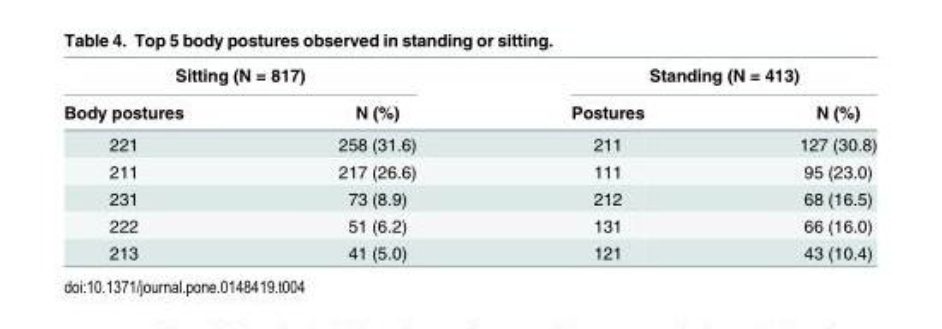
<table><thead><tr><td colspan="2">Sitting (N = 817)</td><td colspan="2">Standing (N = 413)</td></tr><tr><td>Body postures</td><td>N (%)</td><td>Postures</td><td>N (%)</td></tr></thead><tbody><tr><td>221</td><td>258 (31.6)</td><td>211</td><td>127 (30.8)</td></tr><tr><td>211</td><td>217 (26.6)</td><td>111</td><td>95 (23.0)</td></tr><tr><td>231</td><td>73 (8.9)</td><td>212</td><td>68 (16.5)</td></tr><tr><td>222</td><td>51 (6.2)</td><td>131</td><td>66 (16.0)</td></tr><tr><td>213</td><td>41 (5.0)</td><td>121</td><td>43 (10.4)</td></tr></tbody></table>